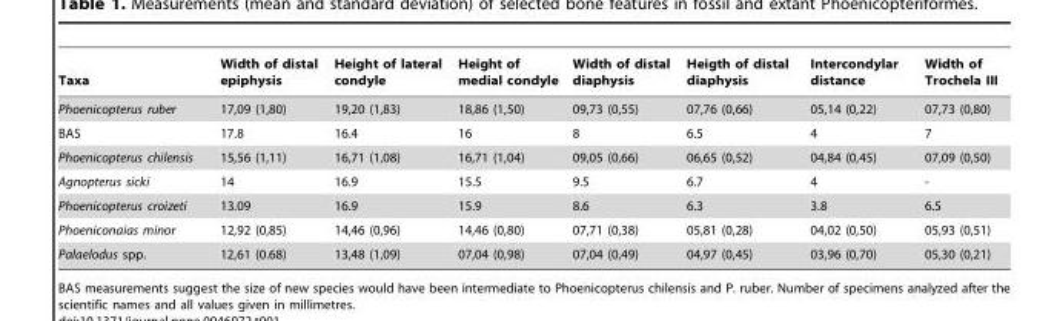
<table><thead><tr><td>Taxa</td><td>Width of distal epiphysis</td><td>Height of lateral condyle</td><td>Height of medial condyle</td><td>Width of distal diaphysis</td><td>Heigth of distal diaphysis</td><td>Intercondylar distance</td><td>Width of Trochela III</td></tr></thead><tbody><tr><td>Phoenicopterus ruber</td><td>17,09 (1,80)</td><td>19,20 (1,83)</td><td>18,86 (1,50)</td><td>09,73 (0,55)</td><td>07,76 (0,66)</td><td>05,14 (0,22)</td><td>07,73 (0,80)</td></tr><tr><td>BAS</td><td>17.8</td><td>16.4</td><td>16</td><td>8</td><td>6.5</td><td>4</td><td>7</td></tr><tr><td>Phoenicopterus chilensis</td><td>15,56 (1,11)</td><td>16,71 (1,08)</td><td>16,71 (1,04)</td><td>09,05 (0,66)</td><td>06,65 (0,52)</td><td>04,84 (0,45)</td><td>07,09 (0,50)</td></tr><tr><td>Agnopterus sicki</td><td>14</td><td>16.9</td><td>15.5</td><td>9.5</td><td>6.7</td><td>4</td><td>-</td></tr><tr><td>Phoenicopterus croizeti</td><td>13.09</td><td>16.9</td><td>15.9</td><td>8.6</td><td>6.3</td><td>3.8</td><td>6.5</td></tr><tr><td>Phoeniconaias minor</td><td>12,92 (0,85)</td><td>14,46 (0,96)</td><td>14,46 (0,80)</td><td>07,71 (0,38)</td><td>05,81 (0,28)</td><td>04,02 (0,50)</td><td>05,93 (0,51)</td></tr><tr><td>Palaelodus spp.</td><td>12,61 (0.68)</td><td>13,48 (1,09)</td><td>07,04 (0,98)</td><td>07,04 (0,49)</td><td>04,97 (0,45)</td><td>03,96 (0,70)</td><td>05,30 (0,21)</td></tr></tbody></table>